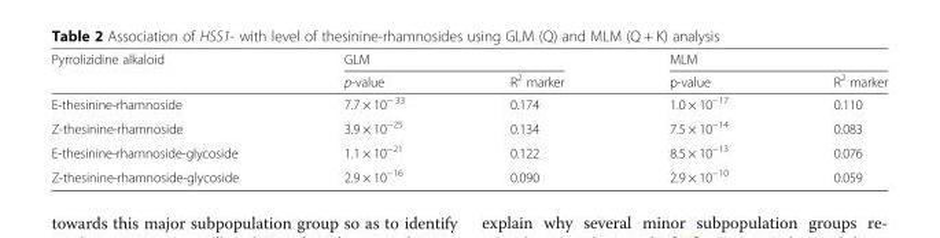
<table><thead><tr><td rowspan="2">Pyrrolizidine alkaloid</td><td colspan="2">GLM</td><td colspan="2">MLM</td></tr><tr><td>p-value</td><td>R<sup>2</sup> marker</td><td>p-value</td><td>R<sup>2</sup> marker</td></tr></thead><tbody><tr><td>E-thesinine-rhamnoside</td><td>7.7 × 10<sup>− 33</sup></td><td>0.174</td><td>1.0 × 10<sup>−17</sup></td><td>0.110</td></tr><tr><td>Z-thesinine-rhamnoside</td><td>3.9 × 10<sup>−25</sup></td><td>0.134</td><td>7.5 × 10<sup>−14</sup></td><td>0.083</td></tr><tr><td>E-thesinine-rhamnoside-glycoside</td><td>1.1 × 10<sup>−21</sup></td><td>0.122</td><td>8.5 × 10<sup>−13</sup></td><td>0.076</td></tr><tr><td>Z-thesinine-rhamnoside-glycoside</td><td>2.9 × 10<sup>−16</sup></td><td>0.090</td><td>2.9 × 10<sup>−10</sup></td><td>0.059</td></tr></tbody></table>